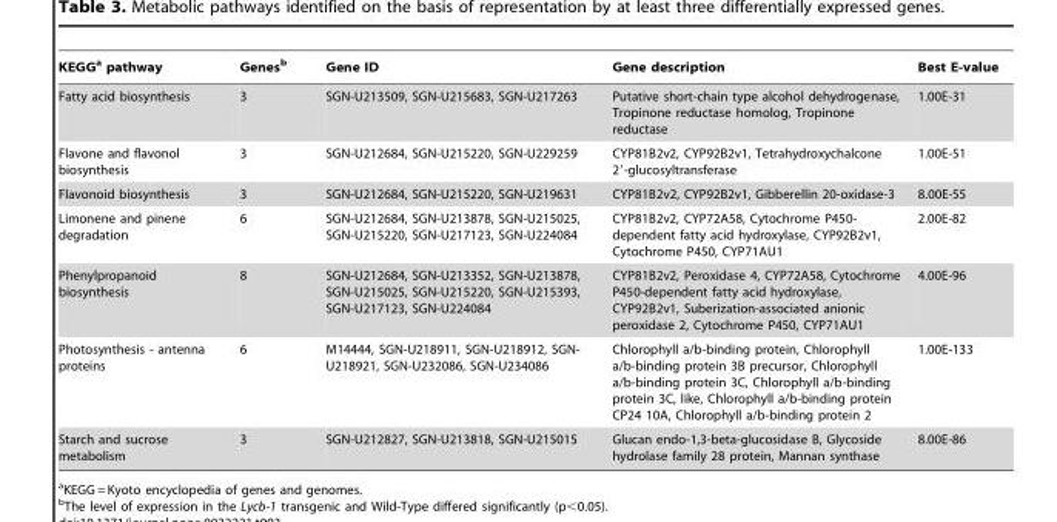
<table><thead><tr><td>KEGG<sup>a</sup> pathway</td><td>Genes<sup>b</sup></td><td>Gene ID</td><td>Gene description</td><td>Best E-value</td></tr></thead><tbody><tr><td>Fatty acid biosynthesis</td><td>3</td><td>SGN-U213509, SGN-U215683, SGN-U217263</td><td>Putative short-chain type alcohol dehydrogenase, Tropinone reductase homolog, Tropinone reductase</td><td>1.00E-31</td></tr><tr><td>Flavone and flavonol biosynthesis</td><td>3</td><td>SGN-U212684, SGN-U215220, SGN-U229259</td><td>CYP81B2v2, CYP92B2v1, Tetrahydroxychalcone 2′-glucosyltransferase</td><td>1.00E-51</td></tr><tr><td>Flavonoid biosynthesis</td><td>3</td><td>SGN-U212684, SGN-U215220, SGN-U219631</td><td>CYP81B2v2, CYP92B2v1, Gibberellin 20-oxidase-3</td><td>8.00E-55</td></tr><tr><td>Limonene and pinene degradation</td><td>6</td><td>SGN-U212684, SGN-U213878, SGN-U215025, SGN-U215220, SGN-U217123, SGN-U224084</td><td>CYP81B2v2, CYP72A58, Cytochrome P450- dependent fatty acid hydroxylase, CYP92B2v1, Cytochrome P450, CYP71AU1</td><td>2.00E-82</td></tr><tr><td>Phenylpropanoid biosynthesis</td><td>8</td><td>SGN-U212684, SGN-U213352, SGN-U213878, SGN-U215025, SGN-U215220, SGN-U215393, SGN-U217123, SGN-U224084</td><td>CYP81B2v2, Peroxidase 4, CYP72A58, Cytochrome P450-dependent fatty acid hydroxylase, CYP92B2v1, Suberization-associated anionic peroxidase 2, Cytochrome P450, CYP71AU1</td><td>4.00E-96</td></tr><tr><td>Photosynthesis - antenna proteins</td><td>6</td><td>M14444, SGN-U218911, SGN-U218912, SGN- U218921, SGN-U232086, SGN-U234086</td><td>Chlorophyll a/b-binding protein, Chlorophyll a/b-binding protein 3B precursor, Chlorophyll a/b-binding protein 3C, Chlorophyll a/b-binding protein 3C, like, Chlorophyll a/b-binding protein CP24 10A, Chlorophyll a/b-binding protein 2</td><td>1.00E-133</td></tr><tr><td>Starch and sucrose metabolism</td><td>3</td><td>SGN-U212827, SGN-U213818, SGN-U215015</td><td>Glucan endo-1,3-beta-glucosidase B, Glycoside hydrolase family 28 protein, Mannan synthase</td><td>8.00E-86</td></tr></tbody></table>